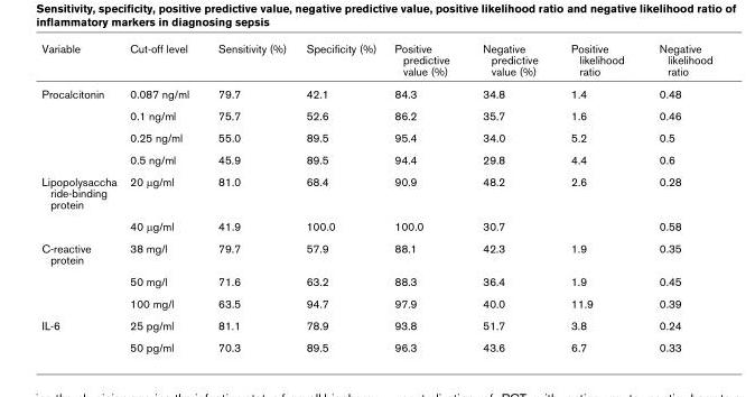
<table><thead><tr><td>Variable</td><td>Cut-off level</td><td>Sensitivity (%)</td><td>Specificity (%)</td><td>Positive predictive value (%)</td><td>Negative predictive value (%)</td><td>Positive likelihood ratio</td><td>Negative likelihood ratio</td></tr></thead><tbody><tr><td rowspan="4">Procalcitonin</td><td>0.087 ng/ml</td><td>79.7</td><td>42.1</td><td>84.3</td><td>34.8</td><td>1.4</td><td>0.48</td></tr><tr><td>0.1 ng/ml</td><td>75.7</td><td>52.6</td><td>86.2</td><td>35.7</td><td>1.6</td><td>0.46</td></tr><tr><td>0.25 ng/ml</td><td>55.0</td><td>89.5</td><td>95.4</td><td>34.0</td><td>5.2</td><td>0.5</td></tr><tr><td>0.5 ng/ml</td><td>45.9</td><td>89.5</td><td>94.4</td><td>29.8</td><td>4.4</td><td>0.6</td></tr><tr><td rowspan="2">Lipopolysaccha ride-binding protein</td><td>20 µg/ml</td><td>81.0</td><td>68.4</td><td>90.9</td><td>48.2</td><td>2.6</td><td>0.28</td></tr><tr><td>40 µg/ml</td><td>41.9</td><td>100.0</td><td>100.0</td><td>30.7</td><td></td><td>0.58</td></tr><tr><td rowspan="3">C-reactive protein</td><td>38 mg/l</td><td>79.7</td><td>57.9</td><td>88.1</td><td>42.3</td><td>1.9</td><td>0.35</td></tr><tr><td>50 mg/l</td><td>71.6</td><td>63.2</td><td>88.3</td><td>36.4</td><td>1.9</td><td>0.45</td></tr><tr><td>100 mg/l</td><td>63.5</td><td>94.7</td><td>97.9</td><td>40.0</td><td>11.9</td><td>0.39</td></tr><tr><td rowspan="2">IL-6</td><td>25 pg/ml</td><td>81.1</td><td>78.9</td><td>93.8</td><td>51.7</td><td>3.8</td><td>0.24</td></tr><tr><td>50 pg/ml</td><td>70.3</td><td>89.5</td><td>96.3</td><td>43.6</td><td>6.7</td><td>0.33</td></tr></tbody></table>